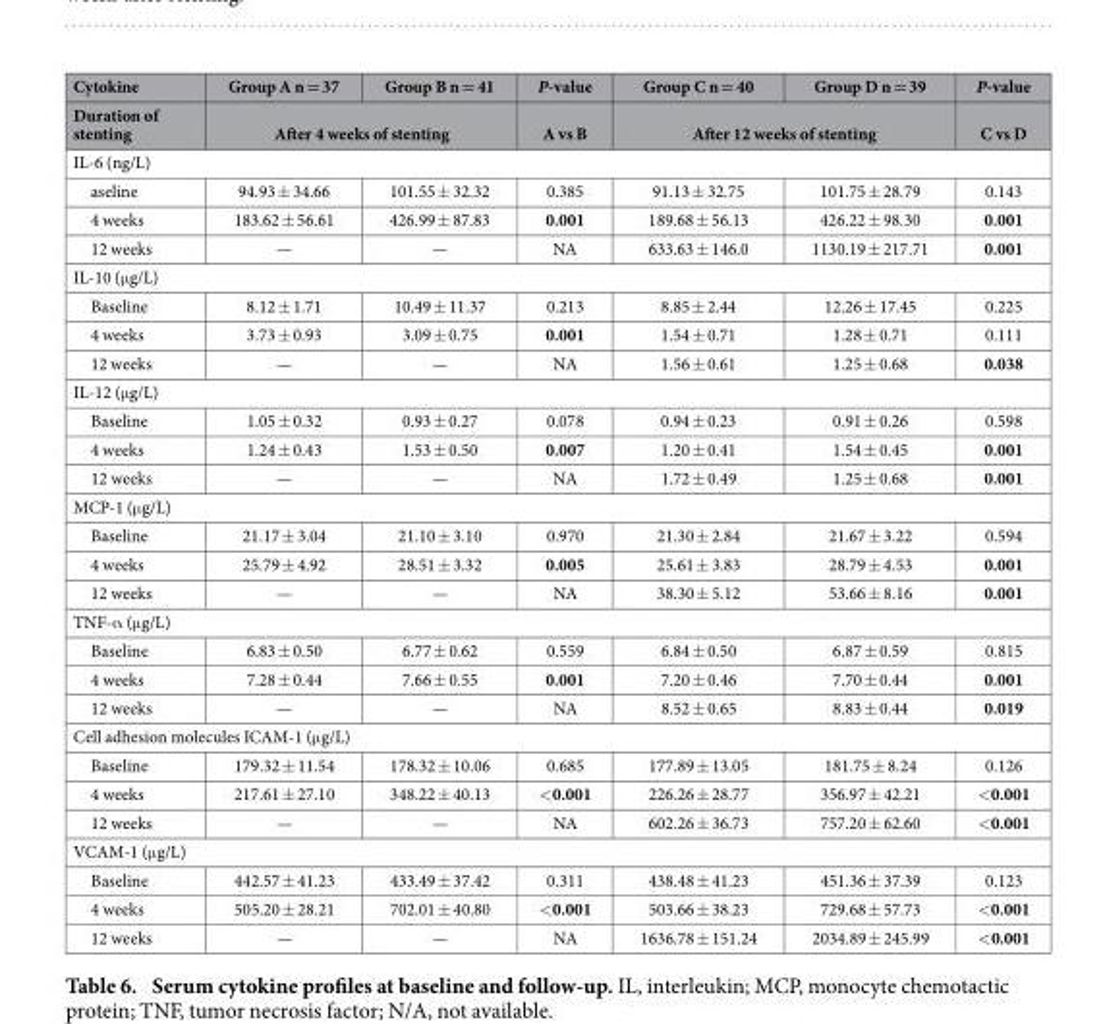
<table><thead><tr><td rowspan="2">Cytokine Duration of stenting</td><td>Group A n = 37</td><td>Group B n = 41</td><td rowspan="2">P-value A vs B</td><td>Group C n = 40</td><td>Group D n = 39</td><td rowspan="2">P-value C vs D</td></tr><tr><td colspan="2">After 4 weeks of stenting</td><td colspan="2">After 12 weeks of stenting</td></tr></thead><tbody><tr><td colspan="7">IL-6 (ng/L)</td></tr><tr><td>aseline</td><td>94.93 ± 34.66</td><td>101.55 ± 32.32</td><td>0.385</td><td>91.13 ± 32.75</td><td>101.75 ± 28.79</td><td>0.143</td></tr><tr><td>4 weeks</td><td>183.62 ± 56.61</td><td>426.99 ± 87.83</td><td>0.001</td><td>189.68 ± 56.13</td><td>426.22 ± 98.30</td><td>0.001</td></tr><tr><td>12 weeks</td><td>—</td><td>—</td><td>NA</td><td>633.63 ± 146.0</td><td>1130.19 ± 217.71</td><td>0.001</td></tr><tr><td colspan="7">IL-10 (μ g/L)</td></tr><tr><td>Baseline</td><td>8.12 ± 1.71</td><td>10.49 ± 11.37</td><td>0.213</td><td>8.85 ± 2.44</td><td>12.26 ± 17.45</td><td>0.225</td></tr><tr><td>4 weeks</td><td>3.73 ± 0.93</td><td>3.09 ± 0.75</td><td>0.001</td><td>1.54 ± 0.71</td><td>1.28 ± 0.71</td><td>0.111</td></tr><tr><td>12 weeks</td><td>—</td><td>—</td><td>NA</td><td>1.56 ± 0.61</td><td>1.25 ± 0.68</td><td>0.038</td></tr><tr><td colspan="7">IL-12 (μ g/L)</td></tr><tr><td>Baseline</td><td>1.05 ± 0.32</td><td>0.93 ± 0.27</td><td>0.078</td><td>0.94 ± 0.23</td><td>0.91 ± 0.26</td><td>0.598</td></tr><tr><td>4 weeks</td><td>1.24 ± 0.43</td><td>1.53 ± 0.50</td><td>0.007</td><td>1.20 ± 0.41</td><td>1.54 ± 0.45</td><td>0.001</td></tr><tr><td>12 weeks</td><td>—</td><td>—</td><td>NA</td><td>1.72 ± 0.49</td><td>1.25 ± 0.68</td><td>0.001</td></tr><tr><td colspan="7">MCP-1 (μ g/L)</td></tr><tr><td>Baseline</td><td>21.17 ± 3.04</td><td>21.10 ± 3.10</td><td>0.970</td><td>21.30 ± 2.84</td><td>21.67 ± 3.22</td><td>0.594</td></tr><tr><td>4 weeks</td><td>25.79 ± 4.92</td><td>28.51 ± 3.32</td><td>0.005</td><td>25.61 ± 3.83</td><td>28.79 ± 4.53</td><td>0.001</td></tr><tr><td>12 weeks</td><td>—</td><td>—</td><td>NA</td><td>38.30 ± 5.12</td><td>53.66 ± 8.16</td><td>0.001</td></tr><tr><td colspan="7">TNF-α (μ g/L)</td></tr><tr><td>Baseline</td><td>6.83 ± 0.50</td><td>6.77 ± 0.62</td><td>0.559</td><td>6.84 ± 0.50</td><td>6.87 ± 0.59</td><td>0.815</td></tr><tr><td>4 weeks</td><td>7.28 ± 0.44</td><td>7.66 ± 0.55</td><td>0.001</td><td>7.20 ± 0.46</td><td>7.70 ± 0.44</td><td>0.001</td></tr><tr><td>12 weeks</td><td>—</td><td>—</td><td>NA</td><td>8.52 ± 0.65</td><td>8.83 ± 0.44</td><td>0.019</td></tr><tr><td colspan="7">Cell adhesion molecules ICAM-1 (μ g/L)</td></tr><tr><td>Baseline</td><td>179.32 ± 11.54</td><td>178.32 ± 10.06</td><td>0.685</td><td>177.89 ± 13.05</td><td>181.75 ± 8.24</td><td>0.126</td></tr><tr><td>4 weeks</td><td>217.61 ± 27.10</td><td>348.22 ± 40.13</td><td>&lt; 0.001</td><td>226.26 ± 28.77</td><td>356.97 ± 42.21</td><td>&lt; 0.001</td></tr><tr><td>12 weeks</td><td>—</td><td>—</td><td>NA</td><td>602.26 ± 36.73</td><td>757.20 ± 62.60</td><td>&lt; 0.001</td></tr><tr><td colspan="7">VCAM-1 (μ g/L)</td></tr><tr><td>Baseline</td><td>442.57 ± 41.23</td><td>433.49 ± 37.42</td><td>0.311</td><td>438.48 ± 41.23</td><td>451.36 ± 37.39</td><td>0.123</td></tr><tr><td>4 weeks</td><td>505.20 ± 28.21</td><td>702.01 ± 40.80</td><td>&lt; 0.001</td><td>503.66 ± 38.23</td><td>729.68 ± 57.73</td><td>&lt; 0.001</td></tr><tr><td>12 weeks</td><td>—</td><td>—</td><td>NA</td><td>1636.78 ± 151.24</td><td>2034.89 ± 245.99</td><td>&lt; 0.001</td></tr></tbody></table>